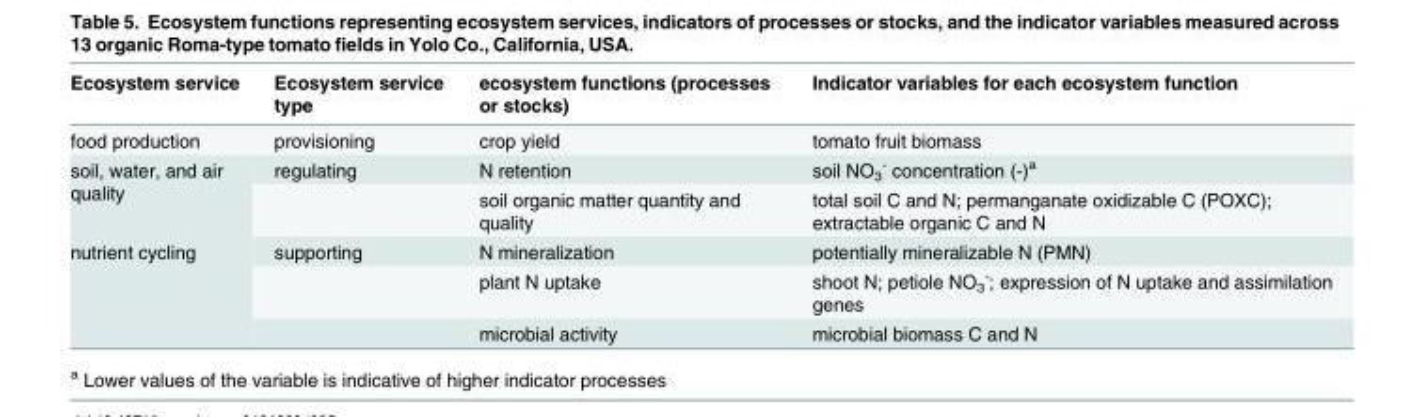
<table><thead><tr><td>Ecosystem service</td><td>Ecosystem service type</td><td>ecosystem functions (processes or stocks)</td><td>Indicator variables for each ecosystem function</td></tr></thead><tbody><tr><td>food production</td><td>provisioning</td><td>crop yield</td><td>tomato fruit biomass</td></tr><tr><td rowspan="2">soil, water, and air quality</td><td>regulating</td><td>N retention</td><td>soil NO<sub>3</sub> <sup>-</sup> concentration (-)<sup>a</sup></td></tr><tr><td></td><td>soil organic matter quantity and quality</td><td>total soil C and N; permanganate oxidizable C (POXC); extractable organic C and N</td></tr><tr><td rowspan="3">nutrient cycling</td><td>supporting</td><td>N mineralization</td><td>potentially mineralizable N (PMN)</td></tr><tr><td></td><td>plant N uptake</td><td>shoot N; petiole NO<sub>3</sub> <sup>-</sup>; expression of N uptake and assimilation genes</td></tr><tr><td></td><td>microbial activity</td><td>microbial biomass C and N</td></tr></tbody></table>